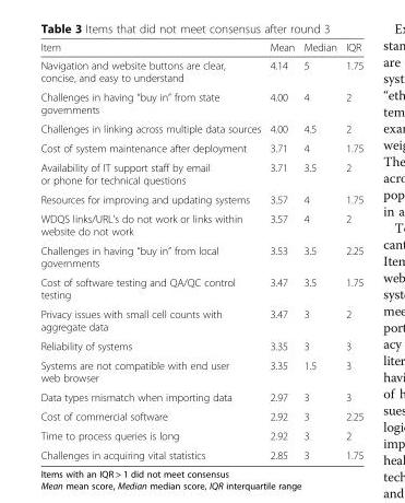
<table><thead><tr><td>Item</td><td>Mean</td><td>Median</td><td>IQR</td></tr></thead><tbody><tr><td>Navigation and website buttons are clear, concise, and easy to understand</td><td>4.14</td><td>5</td><td>1.75</td></tr><tr><td>Challenges in having “buy in” from state governments</td><td>4.00</td><td>4</td><td>2</td></tr><tr><td>Challenges in linking across multiple data sources</td><td>4.00</td><td>4.5</td><td>2</td></tr><tr><td>Cost of system maintenance after deployment</td><td>3.71</td><td>4</td><td>1.75</td></tr><tr><td>Availability of IT support staff by email or phone for technical questions</td><td>3.71</td><td>3.5</td><td>2</td></tr><tr><td>Resources for improving and updating systems</td><td>3.57</td><td>4</td><td>1.75</td></tr><tr><td>WDQS links/URL’s do not work or links within website do not work</td><td>3.57</td><td>4</td><td>2</td></tr><tr><td>Challenges in having “buy in” from local governments</td><td>3.53</td><td>3.5</td><td>2.25</td></tr><tr><td>Cost of software testing and QA/QC control testing</td><td>3.47</td><td>3.5</td><td>1.75</td></tr><tr><td>Privacy issues with small cell counts with aggregate data</td><td>3.47</td><td>3</td><td>2</td></tr><tr><td>Reliability of systems</td><td>3.35</td><td>3</td><td>3</td></tr><tr><td>Systems are not compatible with end user web browser</td><td>3.35</td><td>1.5</td><td>3</td></tr><tr><td>Data types mismatch when importing data</td><td>2.97</td><td>3</td><td>3</td></tr><tr><td>Cost of commercial software</td><td>2.92</td><td>3</td><td>2.25</td></tr><tr><td>Time to process queries is long</td><td>2.92</td><td>3</td><td>2</td></tr><tr><td>Challenges in acquiring vital statistics</td><td>2.85</td><td>3</td><td>1.75</td></tr></tbody></table>